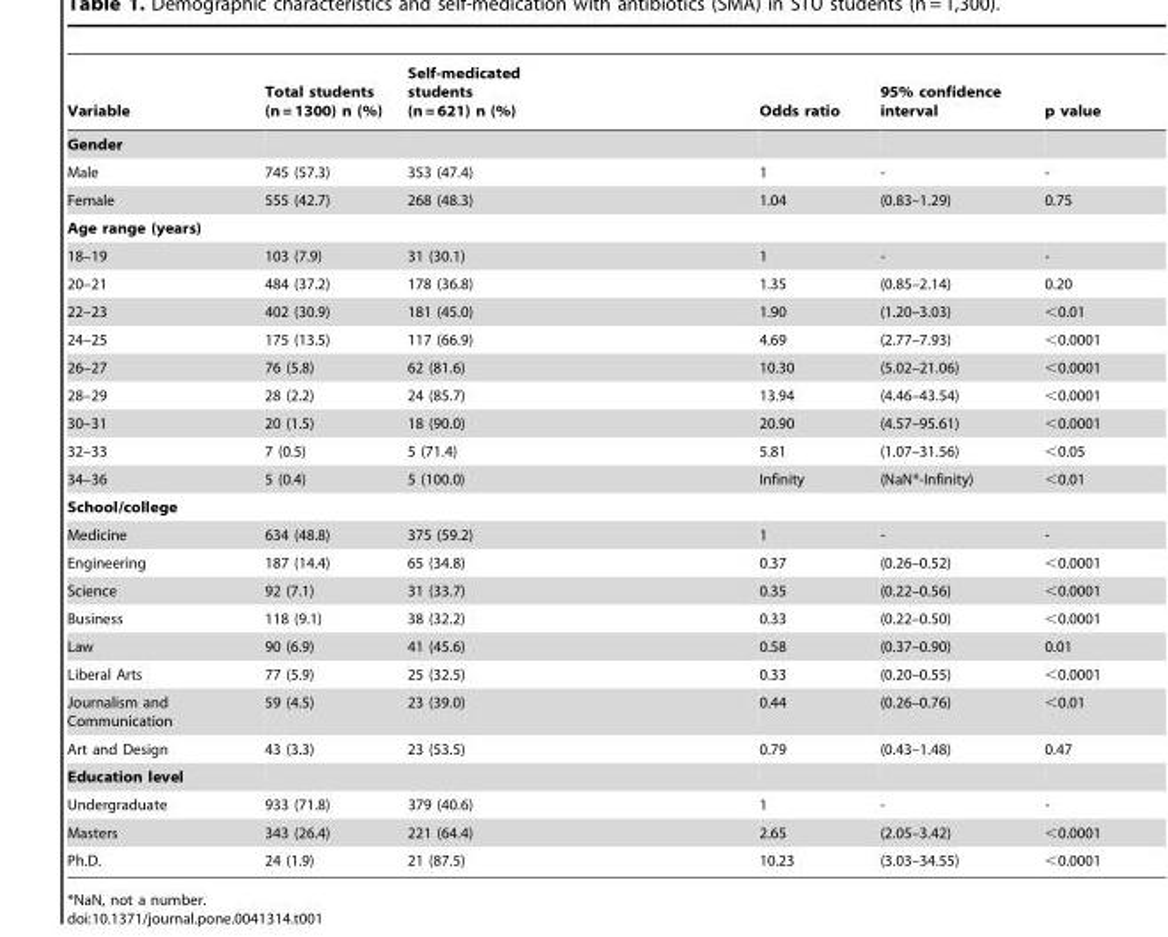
<table><thead><tr><td>Variable</td><td>Total students (n = 1300) n (%)</td><td>Self-medicated students (n = 621) n (%)</td><td>Odds ratio</td><td>95% confidence interval</td><td>p value</td></tr></thead><tbody><tr><td colspan="6">Gender</td></tr><tr><td>Male</td><td>745 (57.3)</td><td>353 (47.4)</td><td>1</td><td>-</td><td>-</td></tr><tr><td>Female</td><td>555 (42.7)</td><td>268 (48.3)</td><td>1.04</td><td>(0.83–1.29)</td><td>0.75</td></tr><tr><td colspan="6">Age range (years)</td></tr><tr><td>18–19</td><td>103 (7.9)</td><td>31 (30.1)</td><td>1</td><td>-</td><td>-</td></tr><tr><td>20–21</td><td>484 (37.2)</td><td>178 (36.8)</td><td>1.35</td><td>(0.85–2.14)</td><td>0.20</td></tr><tr><td>22–23</td><td>402 (30.9)</td><td>181 (45.0)</td><td>1.90</td><td>(1.20–3.03)</td><td>&lt;0.01</td></tr><tr><td>24–25</td><td>175 (13.5)</td><td>117 (66.9)</td><td>4.69</td><td>(2.77–7.93)</td><td>&lt;0.0001</td></tr><tr><td>26–27</td><td>76 (5.8)</td><td>62 (81.6)</td><td>10.30</td><td>(5.02–21.06)</td><td>&lt;0.0001</td></tr><tr><td>28–29</td><td>28 (2.2)</td><td>24 (85.7)</td><td>13.94</td><td>(4.46–43.54)</td><td>&lt;0.0001</td></tr><tr><td>30–31</td><td>20 (1.5)</td><td>18 (90.0)</td><td>20.90</td><td>(4.57–95.61)</td><td>&lt;0.0001</td></tr><tr><td>32–33</td><td>7 (0.5)</td><td>5 (71.4)</td><td>5.81</td><td>(1.07–31.56)</td><td>&lt;0.05</td></tr><tr><td>34–36</td><td>5 (0.4)</td><td>5 (100.0)</td><td>Infinity</td><td>(NaN*-Infinity)</td><td>&lt;0.01</td></tr><tr><td colspan="6">School/college</td></tr><tr><td>Medicine</td><td>634 (48.8)</td><td>375 (59.2)</td><td>1</td><td>-</td><td>-</td></tr><tr><td>Engineering</td><td>187 (14.4)</td><td>65 (34.8)</td><td>0.37</td><td>(0.26–0.52)</td><td>&lt;0.0001</td></tr><tr><td>Science</td><td>92 (7.1)</td><td>31 (33.7)</td><td>0.35</td><td>(0.22–0.56)</td><td>&lt;0.0001</td></tr><tr><td>Business</td><td>118 (9.1)</td><td>38 (32.2)</td><td>0.33</td><td>(0.22–0.50)</td><td>&lt;0.0001</td></tr><tr><td>Law</td><td>90 (6.9)</td><td>41 (45.6)</td><td>0.58</td><td>(0.37–0.90)</td><td>0.01</td></tr><tr><td>Liberal Arts</td><td>77 (5.9)</td><td>25 (32.5)</td><td>0.33</td><td>(0.20–0.55)</td><td>&lt;0.0001</td></tr><tr><td>Journalism and Communication</td><td>59 (4.5)</td><td>23 (39.0)</td><td>0.44</td><td>(0.26–0.76)</td><td>&lt;0.01</td></tr><tr><td>Art and Design</td><td>43 (3.3)</td><td>23 (53.5)</td><td>0.79</td><td>(0.43–1.48)</td><td>0.47</td></tr><tr><td colspan="6">Education level</td></tr><tr><td>Undergraduate</td><td>933 (71.8)</td><td>379 (40.6)</td><td>1</td><td>-</td><td>-</td></tr><tr><td>Masters</td><td>343 (26.4)</td><td>221 (64.4)</td><td>2.65</td><td>(2.05–3.42)</td><td>&lt;0.0001</td></tr><tr><td>Ph.D.</td><td>24 (1.9)</td><td>21 (87.5)</td><td>10.23</td><td>(3.03–34.55)</td><td>&lt;0.0001</td></tr></tbody></table>